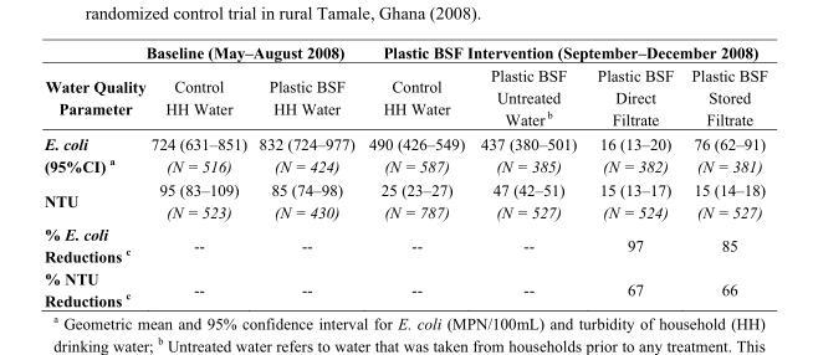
<table><thead><tr><td colspan="3">Baseline (May–August 2008)</td><td colspan="4">Plastic BSF Intervention (September–December 2008)</td></tr><tr><td>Water Quality Parameter</td><td>Control HH Water</td><td>Plastic BSF HH Water</td><td>Control HH Water</td><td>Plastic BSF Untreated Water <sup>b</sup></td><td>Plastic BSF Direct Filtrate</td><td>Plastic BSF Stored Filtrate</td></tr></thead><tbody><tr><td rowspan="2">E. coli (95%CI) <sup>a</sup></td><td>724 (631–851)</td><td>832 (724–977)</td><td>490 (426–549)</td><td>437 (380–501)</td><td>16 (13–20)</td><td>76 (62–91)</td></tr><tr><td>(N = 516)</td><td>(N = 424)</td><td>(N = 587)</td><td>(N = 385)</td><td>(N = 382)</td><td>(N = 381)</td></tr><tr><td rowspan="2">NTU</td><td>95 (83–109)</td><td>85 (74–98)</td><td>25 (23–27)</td><td>47 (42–51)</td><td>15 (13–17)</td><td>15 (14–18)</td></tr><tr><td>(N = 523)</td><td>(N = 430)</td><td>(N = 787)</td><td>(N = 527)</td><td>(N = 524)</td><td>(N = 527)</td></tr><tr><td>% E. coli Reductions <sup>c</sup></td><td>--</td><td>--</td><td>--</td><td>--</td><td>97</td><td>85</td></tr><tr><td>% NTU Reductions <sup>c</sup></td><td>--</td><td>--</td><td>--</td><td>--</td><td>67</td><td>66</td></tr></tbody></table>